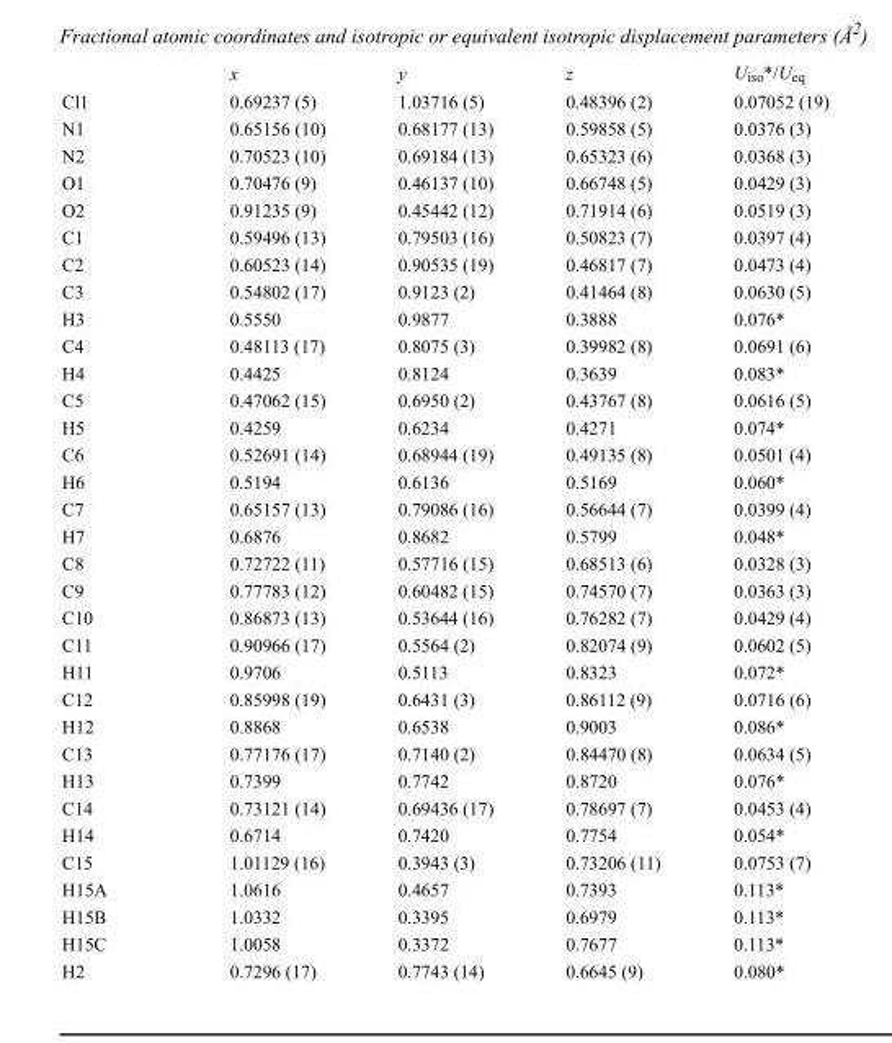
<table><thead><tr><td></td><td>x</td><td>y</td><td>z</td><td>U<sub>iso</sub>*/U<sub>eq</sub></td></tr></thead><tbody><tr><td>Cl1</td><td>0.69237 (5)</td><td>1.03716 (5)</td><td>0.48396 (2)</td><td>0.07052 (19)</td></tr><tr><td>N1</td><td>0.65156 (10)</td><td>0.68177 (13)</td><td>0.59858 (5)</td><td>0.0376 (3)</td></tr><tr><td>N2</td><td>0.70523 (10)</td><td>0.69184 (13)</td><td>0.65323 (6)</td><td>0.0368 (3)</td></tr><tr><td>O1</td><td>0.70476 (9)</td><td>0.46137 (10)</td><td>0.66748 (5)</td><td>0.0429 (3)</td></tr><tr><td>O2</td><td>0.91235 (9)</td><td>0.45442 (12)</td><td>0.71914 (6)</td><td>0.0519 (3)</td></tr><tr><td>C1</td><td>0.59496 (13)</td><td>0.79503 (16)</td><td>0.50823 (7)</td><td>0.0397 (4)</td></tr><tr><td>C2</td><td>0.60523 (14)</td><td>0.90535 (19)</td><td>0.46817 (7)</td><td>0.0473 (4)</td></tr><tr><td>C3</td><td>0.54802 (17)</td><td>0.9123 (2)</td><td>0.41464 (8)</td><td>0.0630 (5)</td></tr><tr><td>H3</td><td>0.5550</td><td>0.9877</td><td>0.3888</td><td>0.076*</td></tr><tr><td>C4</td><td>0.48113 (17)</td><td>0.8075 (3)</td><td>0.39982 (8)</td><td>0.0691 (6)</td></tr><tr><td>H4</td><td>0.4425</td><td>0.8124</td><td>0.3639</td><td>0.083*</td></tr><tr><td>C5</td><td>0.47062 (15)</td><td>0.6950 (2)</td><td>0.43767 (8)</td><td>0.0616 (5)</td></tr><tr><td>H5</td><td>0.4259</td><td>0.6234</td><td>0.4271</td><td>0.074*</td></tr><tr><td>C6</td><td>0.52691 (14)</td><td>0.68944 (19)</td><td>0.49135 (8)</td><td>0.0501 (4)</td></tr><tr><td>H6</td><td>0.5194</td><td>0.6136</td><td>0.5169</td><td>0.060*</td></tr><tr><td>C7</td><td>0.65157 (13)</td><td>0.79086 (16)</td><td>0.56644 (7)</td><td>0.0399 (4)</td></tr><tr><td>H7</td><td>0.6876</td><td>0.8682</td><td>0.5799</td><td>0.048*</td></tr><tr><td>C8</td><td>0.72722 (11)</td><td>0.57716 (15)</td><td>0.68513 (6)</td><td>0.0328 (3)</td></tr><tr><td>C9</td><td>0.77783 (12)</td><td>0.60482 (15)</td><td>0.74570 (7)</td><td>0.0363 (3)</td></tr><tr><td>C10</td><td>0.86873 (13)</td><td>0.53644 (16)</td><td>0.76282 (7)</td><td>0.0429 (4)</td></tr><tr><td>C11</td><td>0.90966 (17)</td><td>0.5564 (2)</td><td>0.82074 (9)</td><td>0.0602 (5)</td></tr><tr><td>H11</td><td>0.9706</td><td>0.5113</td><td>0.8323</td><td>0.072*</td></tr><tr><td>C12</td><td>0.85998 (19)</td><td>0.6431 (3)</td><td>0.86112 (9)</td><td>0.0716 (6)</td></tr><tr><td>H12</td><td>0.8868</td><td>0.6538</td><td>0.9003</td><td>0.086*</td></tr><tr><td>C13</td><td>0.77176 (17)</td><td>0.7140 (2)</td><td>0.84470 (8)</td><td>0.0634 (5)</td></tr><tr><td>H13</td><td>0.7399</td><td>0.7742</td><td>0.8720</td><td>0.076*</td></tr><tr><td>C14</td><td>0.73121 (14)</td><td>0.69436 (17)</td><td>0.78697 (7)</td><td>0.0453 (4)</td></tr><tr><td>H14</td><td>0.6714</td><td>0.7420</td><td>0.7754</td><td>0.054*</td></tr><tr><td>C15</td><td>1.01129 (16)</td><td>0.3943 (3)</td><td>0.73206 (11)</td><td>0.0753 (7)</td></tr><tr><td>H15A</td><td>1.0616</td><td>0.4657</td><td>0.7393</td><td>0.113*</td></tr><tr><td>H15B</td><td>1.0332</td><td>0.3395</td><td>0.6979</td><td>0.113*</td></tr><tr><td>H15C</td><td>1.0058</td><td>0.3372</td><td>0.7677</td><td>0.113*</td></tr><tr><td>H2</td><td>0.7296 (17)</td><td>0.7743 (14)</td><td>0.6645 (9)</td><td>0.080*</td></tr></tbody></table>